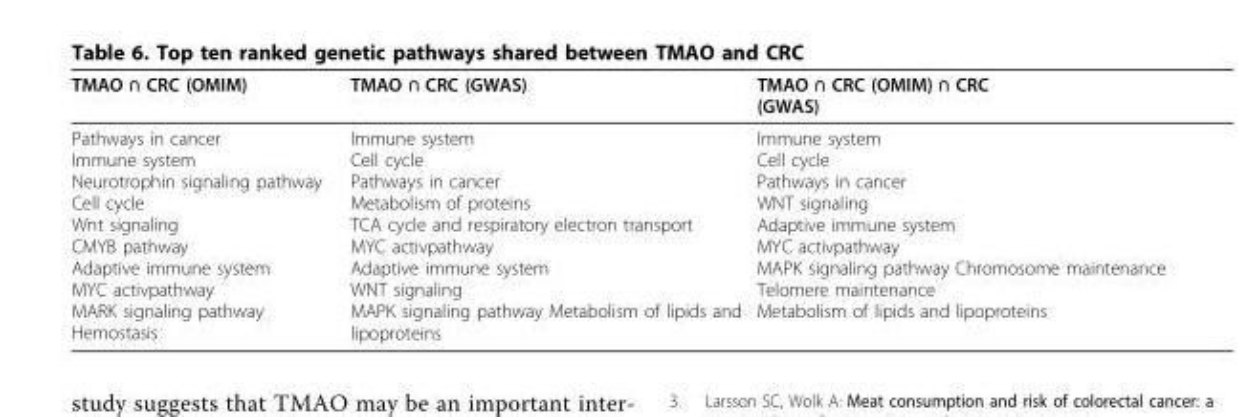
<table><thead><tr><td>TMAO ∩ CRC (OMIM)</td><td>TMAO ∩ CRC (GWAS)</td><td>TMAO ∩ CRC (OMIM) ∩ CRC (GWAS)</td></tr></thead><tbody><tr><td>Pathways in cancer Immune system Neurotrophin signaling pathway Cell cycle Wnt signaling CMYB pathway Adaptive immune system MYC activpathway MARK signaling pathway Hemostasis</td><td>Immune system Cell cycle Pathways in cancer Metabolism of proteins TCA cycle and respiratory electron transport MYC activpathway Adaptive immune system WNT signaling MAPK signaling pathway Metabolism of lipids and lipoproteins</td><td>Immune system Cell cycle Pathways in cancer WNT signaling Adaptive immune system MYC activpathway MAPK signaling pathway Chromosome maintenance Telomere maintenance Metabolism of lipids and lipoproteins</td></tr></tbody></table>